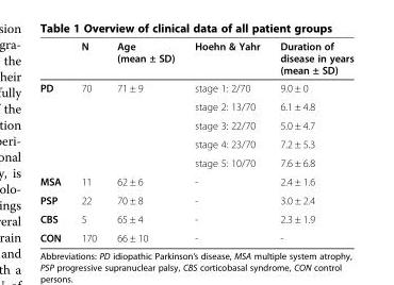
<table><thead><tr><td></td><td>N</td><td>Age (mean ± SD)</td><td>Hoehn &amp; Yahr</td><td>Duration of disease in years (mean ± SD)</td></tr></thead><tbody><tr><td rowspan="5">PD</td><td rowspan="5">70</td><td rowspan="5">71 ± 9</td><td>stage 1: 2/70</td><td>9.0 ± 0</td></tr><tr><td>stage 2: 13/70</td><td>6.1 ± 4.8</td></tr><tr><td>stage 3: 22/70</td><td>5.0 ± 4.7</td></tr><tr><td>stage 4: 23/70</td><td>7.2 ± 5.3</td></tr><tr><td>stage 5: 10/70</td><td>7.6 ± 6.8</td></tr><tr><td>MSA</td><td>11</td><td>62 ± 6</td><td>-</td><td>2.4 ± 1.6</td></tr><tr><td>PSP</td><td>22</td><td>70 ± 8</td><td>-</td><td>3.0 ± 2.4</td></tr><tr><td>CBS</td><td>5</td><td>65 ± 4</td><td>-</td><td>2.3 ± 1.9</td></tr><tr><td>CON</td><td>170</td><td>66 ± 10</td><td>-</td><td>-</td></tr></tbody></table>